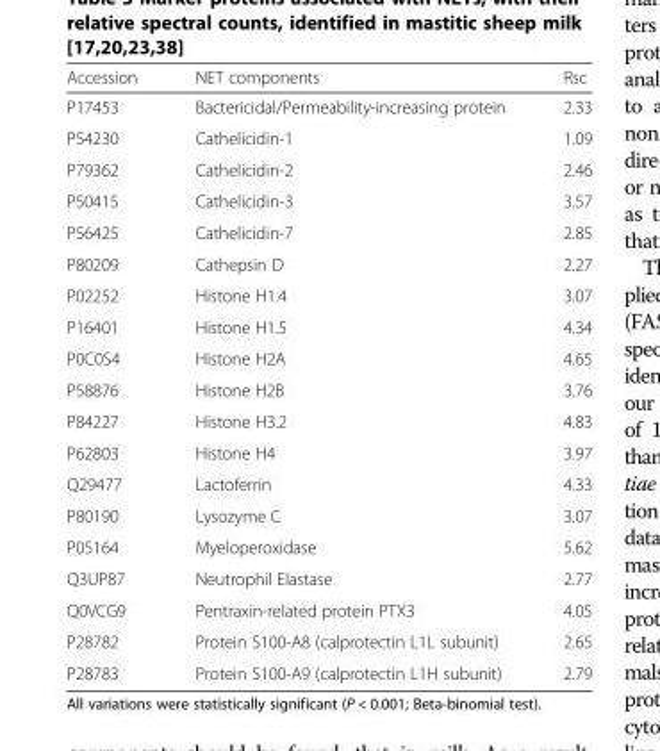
<table><thead><tr><td>Accession</td><td>NET components</td><td>Rsc</td></tr></thead><tbody><tr><td>P17453</td><td>Bactericidal/Permeability-increasing protein</td><td>2.33</td></tr><tr><td>P54230</td><td>Cathelicidin-1</td><td>1.09</td></tr><tr><td>P79362</td><td>Cathelicidin-2</td><td>2.46</td></tr><tr><td>P50415</td><td>Cathelicidin-3</td><td>3.57</td></tr><tr><td>P56425</td><td>Cathelicidin-7</td><td>2.85</td></tr><tr><td>P80209</td><td>Cathepsin D</td><td>2.27</td></tr><tr><td>P02252</td><td>Histone H1.4</td><td>3.07</td></tr><tr><td>P16401</td><td>Histone H1.5</td><td>4.34</td></tr><tr><td>P0C0S4</td><td>Histone H2A</td><td>4.65</td></tr><tr><td>P58876</td><td>Histone H2B</td><td>3.76</td></tr><tr><td>P84227</td><td>Histone H3.2</td><td>4.83</td></tr><tr><td>P62803</td><td>Histone H4</td><td>3.97</td></tr><tr><td>Q29477</td><td>Lactoferrin</td><td>4.33</td></tr><tr><td>P80190</td><td>Lysozyme C</td><td>3.07</td></tr><tr><td>P05164</td><td>Myeloperoxidase</td><td>5.62</td></tr><tr><td>Q3UP87</td><td>Neutrophil Elastase</td><td>2.77</td></tr><tr><td>Q0VCG9</td><td>Pentraxin-related protein PTX3</td><td>4.05</td></tr><tr><td>P28782</td><td>Protein S100-A8 (calprotectin L1L subunit)</td><td>2.65</td></tr><tr><td>P28783</td><td>Protein S100-A9 (calprotectin L1H subunit)</td><td>2.79</td></tr></tbody></table>